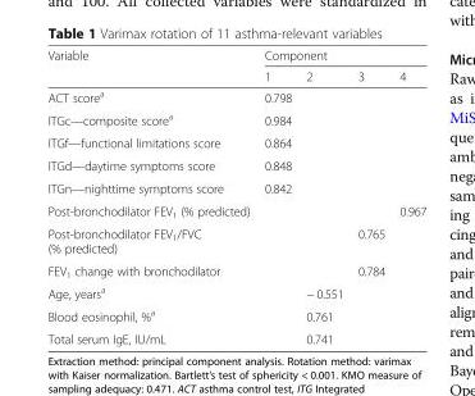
<table><thead><tr><td rowspan="2">Variable</td><td colspan="4">Component</td></tr><tr><td>1</td><td>2</td><td>3</td><td>4</td></tr></thead><tbody><tr><td>ACT score<sup>a</sup></td><td>0.798</td><td></td><td></td><td></td></tr><tr><td>ITGc—composite score<sup>a</sup></td><td>0.984</td><td></td><td></td><td></td></tr><tr><td>ITGf—functional limitations score</td><td>0.864</td><td></td><td></td><td></td></tr><tr><td>ITGd—daytime symptoms score</td><td>0.848</td><td></td><td></td><td></td></tr><tr><td>ITGn—nighttime symptoms score</td><td>0.842</td><td></td><td></td><td></td></tr><tr><td>Post-bronchodilator FEV<sub>1</sub> (% predicted)</td><td></td><td></td><td></td><td>0.967</td></tr><tr><td>Post-bronchodilator FEV<sub>1</sub>/FVC (% predicted)</td><td></td><td></td><td>0.765</td><td></td></tr><tr><td>FEV<sub>1</sub> change with bronchodilator</td><td></td><td></td><td>0.784</td><td></td></tr><tr><td>Age, years<sup>a</sup></td><td></td><td>− 0.551</td><td></td><td></td></tr><tr><td>Blood eosinophil, %<sup>a</sup></td><td></td><td>0.761</td><td></td><td></td></tr><tr><td>Total serum IgE, IU/mL</td><td></td><td>0.741</td><td></td><td></td></tr></tbody></table>